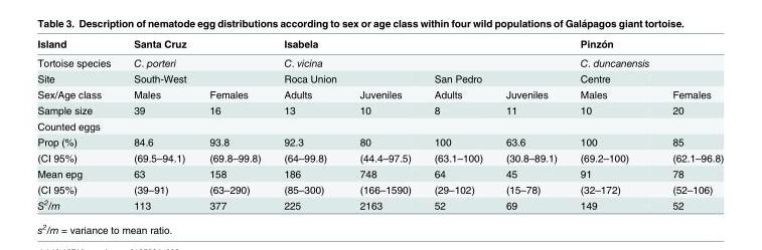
<table><thead><tr><td>Island</td><td>Santa Cruz</td><td></td><td>Isabela</td><td></td><td></td><td></td><td>Pinzón</td><td></td></tr></thead><tbody><tr><td>Tortoise species</td><td>C. porteri</td><td></td><td>C. vicina</td><td></td><td></td><td></td><td>C. duncanensis</td><td></td></tr><tr><td>Site</td><td>South-West</td><td></td><td>Roca Union</td><td></td><td>San Pedro</td><td></td><td>Centre</td><td></td></tr><tr><td>Sex/Age class</td><td>Males</td><td>Females</td><td>Adults</td><td>Juveniles</td><td>Adults</td><td>Juveniles</td><td>Males</td><td>Females</td></tr><tr><td>Sample size</td><td>39</td><td>16</td><td>13</td><td>10</td><td>8</td><td>11</td><td>10</td><td>20</td></tr><tr><td colspan="9">Counted eggs</td></tr><tr><td>Prop (%)</td><td>84.6</td><td>93.8</td><td>92.3</td><td>80</td><td>100</td><td>63.6</td><td>100</td><td>85</td></tr><tr><td>(CI 95%)</td><td>(69.5–94.1)</td><td>(69.8–99.8)</td><td>(64–99.8)</td><td>(44.4–97.5)</td><td>(63.1–100)</td><td>(30.8–89.1)</td><td>(69.2–100)</td><td>(62.1–96.8)</td></tr><tr><td>Mean epg</td><td>63</td><td>158</td><td>186</td><td>748</td><td>64</td><td>45</td><td>91</td><td>78</td></tr><tr><td>(CI 95%)</td><td>(39–91)</td><td>(63–290)</td><td>(85–300)</td><td>(166–1590)</td><td>(29–102)</td><td>(15–78)</td><td>(32–172)</td><td>(52–106)</td></tr><tr><td>S<sup>2</sup>/m</td><td>113</td><td>377</td><td>225</td><td>2163</td><td>52</td><td>69</td><td>149</td><td>52</td></tr></tbody></table>